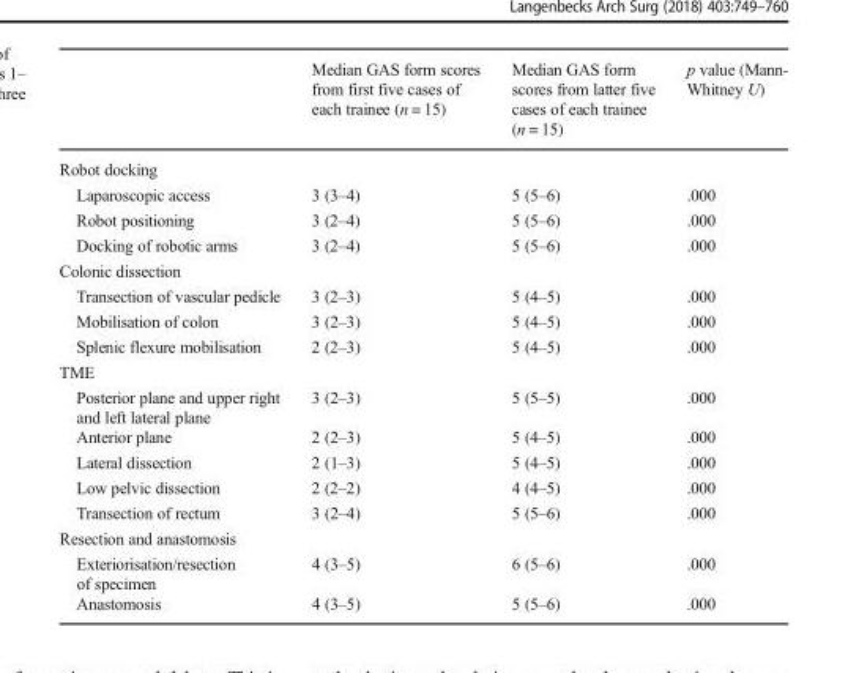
<table><thead><tr><td></td><td>Median GAS form scores from first five cases of each trainee (n = 15)</td><td>Median GAS form scores from latter five cases of each trainee (n = 15)</td><td>p value (Mann- Whitney U)</td></tr></thead><tbody><tr><td colspan="4">Robot docking</td></tr><tr><td>Laparoscopic access</td><td>3 (3–4)</td><td>5 (5–6)</td><td>.000</td></tr><tr><td>Robot positioning</td><td>3 (2–4)</td><td>5 (5–6)</td><td>.000</td></tr><tr><td>Docking of robotic arms</td><td>3 (2–4)</td><td>5 (5–6)</td><td>.000</td></tr><tr><td colspan="4">Colonic dissection</td></tr><tr><td>Transection of vascular pedicle</td><td>3 (2–3)</td><td>5 (4–5)</td><td>.000</td></tr><tr><td>Mobilisation of colon</td><td>3 (2–3)</td><td>5 (4–5)</td><td>.000</td></tr><tr><td>Splenic flexure mobilisation</td><td>2 (2–3)</td><td>5 (4–5)</td><td>.000</td></tr><tr><td colspan="4">TME</td></tr><tr><td>Posterior plane and upper right and left lateral plane</td><td>3 (2–3)</td><td>5 (5–5)</td><td>.000</td></tr><tr><td>Anterior plane</td><td>2 (2–3)</td><td>5 (4–5)</td><td>.000</td></tr><tr><td>Lateral dissection</td><td>2 (1–3)</td><td>5 (4–5)</td><td>.000</td></tr><tr><td>Low pelvic dissection</td><td>2 (2–2)</td><td>4 (4–5)</td><td>.000</td></tr><tr><td>Transection of rectum</td><td>3 (2–4)</td><td>5 (5–6)</td><td>.000</td></tr><tr><td colspan="4">Resection and anastomosis</td></tr><tr><td>Exteriorisation/resection of specimen</td><td>4 (3–5)</td><td>6 (5–6)</td><td>.000</td></tr><tr><td>Anastomosis</td><td>4 (3–5)</td><td>5 (5–6)</td><td>.000</td></tr></tbody></table>